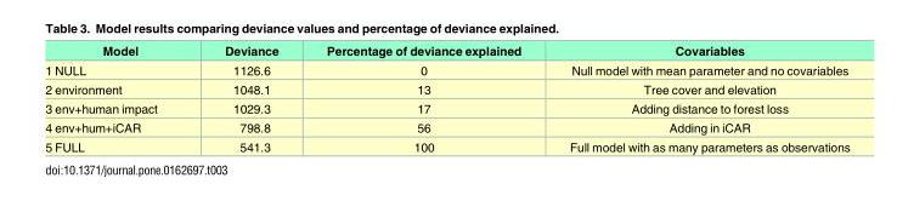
<table><thead><tr><td>Model</td><td>Deviance</td><td>Percentage of deviance explained</td><td>Covariables</td></tr></thead><tbody><tr><td>1 NULL</td><td>1126.6</td><td>0</td><td>Null model with mean parameter and no covariables</td></tr><tr><td>2 environment</td><td>1048.1</td><td>13</td><td>Tree cover and elevation</td></tr><tr><td>3 env+human impact</td><td>1029.3</td><td>17</td><td>Adding distance to forest loss</td></tr><tr><td>4 env+hum+iCAR</td><td>798.8</td><td>56</td><td>Adding in iCAR</td></tr><tr><td>5 FULL</td><td>541.3</td><td>100</td><td>Full model with as many parameters as observations</td></tr></tbody></table>